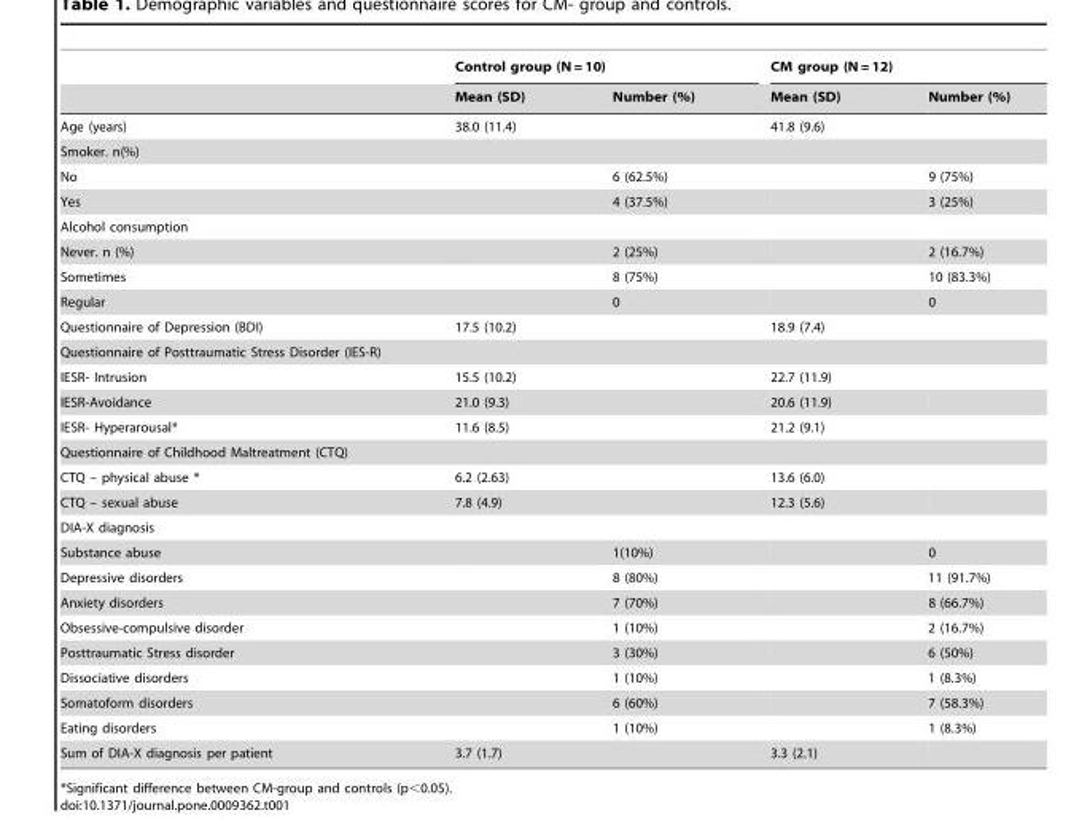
<table><thead><tr><td rowspan="2"></td><td colspan="2">Control group (N = 10)</td><td colspan="2">CM group (N = 12)</td></tr><tr><td>Mean (SD)</td><td>Number (%)</td><td>Mean (SD)</td><td>Number (%)</td></tr></thead><tbody><tr><td>Age (years)</td><td>38.0 (11.4)</td><td></td><td>41.8 (9.6)</td><td></td></tr><tr><td colspan="5">Smoker. n(%)</td></tr><tr><td>No</td><td></td><td>6 (62.5%)</td><td></td><td>9 (75%)</td></tr><tr><td>Yes</td><td></td><td>4 (37.5%)</td><td></td><td>3 (25%)</td></tr><tr><td colspan="5">Alcohol consumption</td></tr><tr><td>Never. n (%)</td><td></td><td>2 (25%)</td><td></td><td>2 (16.7%)</td></tr><tr><td>Sometimes</td><td></td><td>8 (75%)</td><td></td><td>10 (83.3%)</td></tr><tr><td>Regular</td><td></td><td>0</td><td></td><td>0</td></tr><tr><td>Questionnaire of Depression (BDI)</td><td>17.5 (10.2)</td><td></td><td>18.9 (7.4)</td><td></td></tr><tr><td colspan="5">Questionnaire of Posttraumatic Stress Disorder (IES-R)</td></tr><tr><td>IESR- Intrusion</td><td>15.5 (10.2)</td><td></td><td>22.7 (11.9)</td><td></td></tr><tr><td>IESR-Avoidance</td><td>21.0 (9.3)</td><td></td><td>20.6 (11.9)</td><td></td></tr><tr><td>IESR- Hyperarousal*</td><td>11.6 (8.5)</td><td></td><td>21.2 (9.1)</td><td></td></tr><tr><td colspan="5">Questionnaire of Childhood Maltreatment (CTQ)</td></tr><tr><td>CTQ – physical abuse *</td><td>6.2 (2.63)</td><td></td><td>13.6 (6.0)</td><td></td></tr><tr><td>CTQ – sexual abuse</td><td>7.8 (4.9)</td><td></td><td>12.3 (5.6)</td><td></td></tr><tr><td colspan="5">DIA-X diagnosis</td></tr><tr><td>Substance abuse</td><td></td><td>1(10%)</td><td></td><td>0</td></tr><tr><td>Depressive disorders</td><td></td><td>8 (80%)</td><td></td><td>11 (91.7%)</td></tr><tr><td>Anxiety disorders</td><td></td><td>7 (70%)</td><td></td><td>8 (66.7%)</td></tr><tr><td>Obsessive-compulsive disorder</td><td></td><td>1 (10%)</td><td></td><td>2 (16.7%)</td></tr><tr><td>Posttraumatic Stress disorder</td><td></td><td>3 (30%)</td><td></td><td>6 (50%)</td></tr><tr><td>Dissociative disorders</td><td></td><td>1 (10%)</td><td></td><td>1 (8.3%)</td></tr><tr><td>Somatoform disorders</td><td></td><td>6 (60%)</td><td></td><td>7 (58.3%)</td></tr><tr><td>Eating disorders</td><td></td><td>1 (10%)</td><td></td><td>1 (8.3%)</td></tr><tr><td>Sum of DIA-X diagnosis per patient</td><td>3.7 (1.7)</td><td></td><td>3.3 (2.1)</td><td></td></tr></tbody></table>